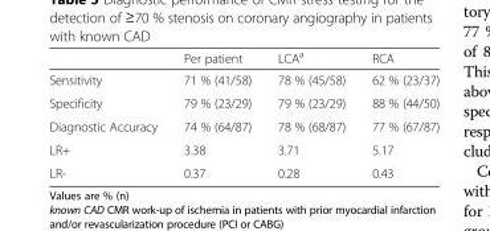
<table><thead><tr><td></td><td>Per patient</td><td>LCA<sup>a</sup></td><td>RCA</td></tr></thead><tbody><tr><td>Sensitivity</td><td>71 % (41/58)</td><td>78 % (45/58)</td><td>62 % (23/37)</td></tr><tr><td>Specificity</td><td>79 % (23/29)</td><td>79 % (23/29)</td><td>88 % (44/50)</td></tr><tr><td>Diagnostic Accuracy</td><td>74 % (64/87)</td><td>78 % (68/87)</td><td>77 % (67/87)</td></tr><tr><td>LR+</td><td>3.38</td><td>3.71</td><td>5.17</td></tr><tr><td>LR-</td><td>0.37</td><td>0.28</td><td>0.43</td></tr></tbody></table>